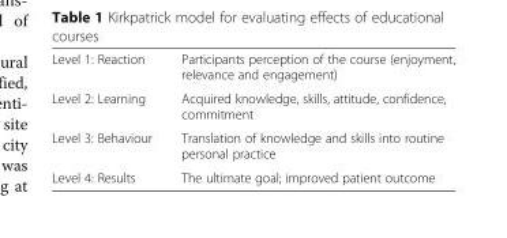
<table><tbody><tr><td>Level 1: Reaction</td><td>Participants perception of the course (enjoyment, relevance and engagement)</td></tr><tr><td>Level 2: Learning</td><td>Acquired knowledge, skills, attitude, confidence, commitment</td></tr><tr><td>Level 3: Behaviour</td><td>Translation of knowledge and skills into routine personal practice</td></tr><tr><td>Level 4: Results</td><td>The ultimate goal; improved patient outcome</td></tr></tbody></table>